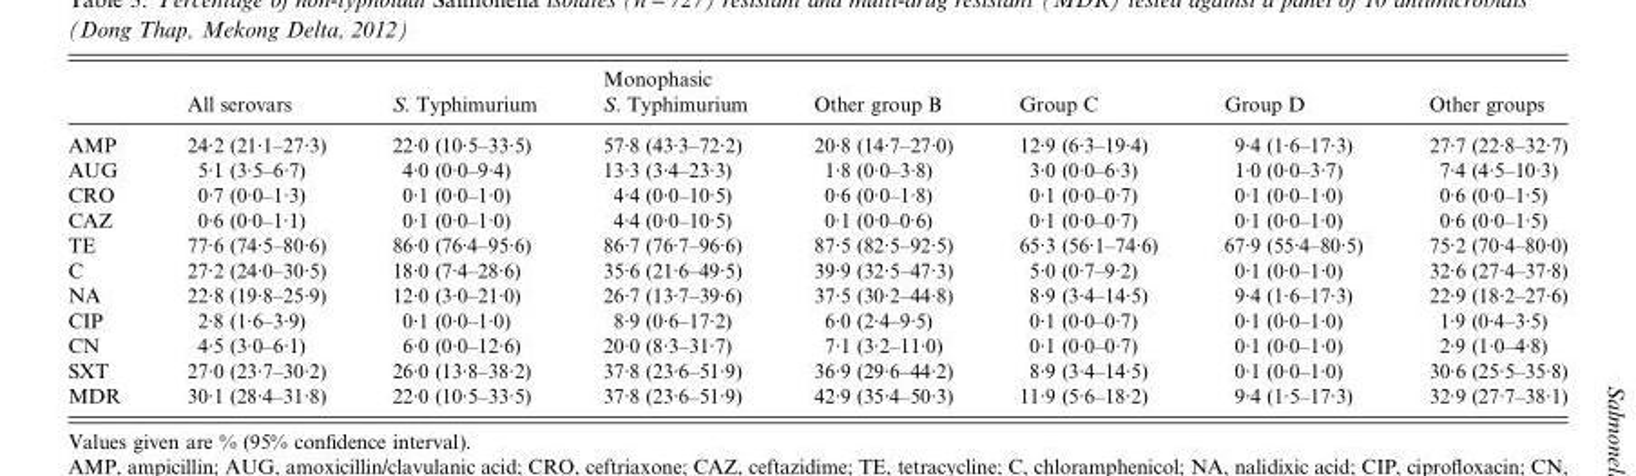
<table><thead><tr><td></td><td>All serovars</td><td>S. Typhimurium</td><td>Monophasic S. Typhimurium</td><td>Other group B</td><td>Group C</td><td>Group D</td><td>Other groups</td></tr></thead><tbody><tr><td>AMP</td><td>24·2 (21·1–27·3)</td><td>22·0 (10·5–33·5)</td><td>57·8 (43·3–72·2)</td><td>20·8 (14·7–27·0)</td><td>12·9 (6·3–19·4)</td><td>9·4 (1·6–17·3)</td><td>27·7 (22·8–32·7)</td></tr><tr><td>AUG</td><td>5·1 (3·5–6·7)</td><td>4·0 (0·0–9·4)</td><td>13·3 (3·4–23·3)</td><td>1·8 (0·0–3·8)</td><td>3·0 (0·0–6·3)</td><td>1·0 (0·0–3·7)</td><td>7·4 (4·5–10·3)</td></tr><tr><td>CRO</td><td>0·7 (0·0–1·3)</td><td>0·1 (0·0–1·0)</td><td>4·4 (0·0–10·5)</td><td>0·6 (0·0–1·8)</td><td>0·1 (0·0–0·7)</td><td>0·1 (0·0–1·0)</td><td>0·6 (0·0–1·5)</td></tr><tr><td>CAZ</td><td>0·6 (0·0–1·1)</td><td>0·1 (0·0–1·0)</td><td>4·4 (0·0–10·5)</td><td>0·1 (0·0–0·6)</td><td>0·1 (0·0–0·7)</td><td>0·1 (0·0–1·0)</td><td>0·6 (0·0–1·5)</td></tr><tr><td>TE</td><td>77·6 (74·5–80·6)</td><td>86·0 (76·4–95·6)</td><td>86·7 (76·7–96·6)</td><td>87·5 (82·5–92·5)</td><td>65·3 (56·1–74·6)</td><td>67·9 (55·4–80·5)</td><td>75·2 (70·4–80·0)</td></tr><tr><td>C</td><td>27·2 (24·0–30·5)</td><td>18·0 (7·4–28·6)</td><td>35·6 (21·6–49·5)</td><td>39·9 (32·5–47·3)</td><td>5·0 (0·7–9·2)</td><td>0·1 (0·0–1·0)</td><td>32·6 (27·4–37·8)</td></tr><tr><td>NA</td><td>22·8 (19·8–25·9)</td><td>12·0 (3·0–21·0)</td><td>26·7 (13·7–39·6)</td><td>37·5 (30·2–44·8)</td><td>8·9 (3·4–14·5)</td><td>9·4 (1·6–17·3)</td><td>22·9 (18·2–27·6)</td></tr><tr><td>CIP</td><td>2·8 (1·6–3·9)</td><td>0·1 (0·0–1·0)</td><td>8·9 (0·6–17·2)</td><td>6·0 (2·4–9·5)</td><td>0·1 (0·0–0·7)</td><td>0·1 (0·0–1·0)</td><td>1·9 (0·4–3·5)</td></tr><tr><td>CN</td><td>4·5 (3·0–6·1)</td><td>6·0 (0·0–12·6)</td><td>20·0 (8·3–31·7)</td><td>7·1 (3·2–11·0)</td><td>0·1 (0·0–0·7)</td><td>0·1 (0·0–1·0)</td><td>2·9 (1·0–4·8)</td></tr><tr><td>SXT</td><td>27·0 (23·7–30·2)</td><td>26·0 (13·8–38·2)</td><td>37·8 (23·6–51·9)</td><td>36·9 (29·6–44·2)</td><td>8·9 (3·4–14·5)</td><td>0·1 (0·0–1·0)</td><td>30·6 (25·5–35·8)</td></tr><tr><td>MDR</td><td>30·1 (28·4–31·8)</td><td>22·0 (10·5–33·5)</td><td>37·8 (23·6–51·9)</td><td>42·9 (35·4–50·3)</td><td>11·9 (5·6–18·2)</td><td>9·4 (1·5–17·3)</td><td>32·9 (27·7–38·1)</td></tr></tbody></table>